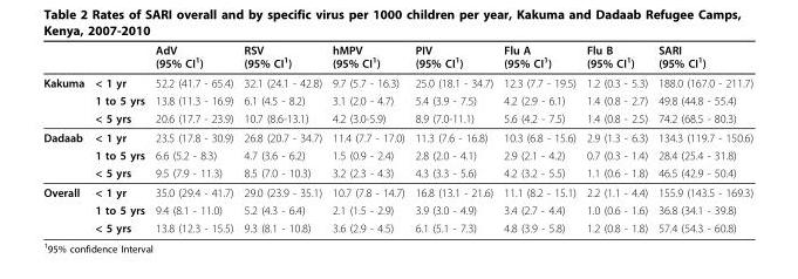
<table><thead><tr><td></td><td></td><td>AdV (95% CI<sup>1</sup>)</td><td>RSV (95% CI<sup>1</sup>)</td><td>hMPV (95% CI<sup>1</sup>)</td><td>PIV (95% CI<sup>1</sup>)</td><td>Flu A (95% CI<sup>1</sup>)</td><td>Flu B (95% CI<sup>1</sup>)</td><td>SARI (95% CI<sup>1</sup>)</td></tr></thead><tbody><tr><td rowspan="3">Kakuma</td><td>&lt; 1 yr</td><td>52.2 (41.7 - 65.4)</td><td>32.1 (24.1 - 42.8)</td><td>9.7 (5.7 - 16.3)</td><td>25.0 (18.1 - 34.7)</td><td>12.3 (7.7 - 19.5)</td><td>1.2 (0.3 - 5.3)</td><td>188.0 (167.0 - 211.7)</td></tr><tr><td>1 to 5 yrs</td><td>13.8 (11.3 - 16.9)</td><td>6.1 (4.5 - 8.2)</td><td>3.1 (2.0 - 4.7)</td><td>5.4 (3.9 - 7.5)</td><td>4.2 (2.9 - 6.1)</td><td>1.4 (0.8 - 2.7)</td><td>49.8 (44.8 - 55.4)</td></tr><tr><td>&lt; 5 yrs</td><td>20.6 (17.7 - 23.9)</td><td>10.7 (8.6-13.1)</td><td>4.2 (3.0-5.9)</td><td>8.9 (7.0-11.1)</td><td>5.6 (4.2 - 7.5)</td><td>1.4 (0.8 - 2.5)</td><td>74.2 (68.5 - 80.3)</td></tr><tr><td rowspan="3">Dadaab</td><td>&lt; 1 yr</td><td>23.5 (17.8 - 30.9)</td><td>26.8 (20.7 - 34.7)</td><td>11.4 (7.7 - 17.0)</td><td>11.3 (7.6 - 16.8)</td><td>10.3 (6.8 - 15.6)</td><td>2.9 (1.3 - 6.3)</td><td>134.3 (119.7 - 150.6)</td></tr><tr><td>1 to 5 yrs</td><td>6.6 (5.2 - 8.3)</td><td>4.7 (3.6 - 6.2)</td><td>1.5 (0.9 - 2.4)</td><td>2.8 (2.0 - 4.1)</td><td>2.9 (2.1 - 4.2)</td><td>0.7 (0.3 - 1.4)</td><td>28.4 (25.4 - 31.8)</td></tr><tr><td>&lt; 5 yrs</td><td>9.5 (7.9 - 11.3)</td><td>8.5 (7.0 - 10.3)</td><td>3.2 (2.3 - 4.3)</td><td>4.3 (3.3 - 5.6)</td><td>4.2 (3.2 - 5.5)</td><td>1.1 (0.6 - 1.8)</td><td>46.5 (42.9 - 50.4)</td></tr><tr><td rowspan="3">Overall</td><td>&lt; 1 yr</td><td>35.0 (29.4 - 41.7)</td><td>29.0 (23.9 - 35.1)</td><td>10.7 (7.8 - 14.7)</td><td>16.8 (13.1 - 21.6)</td><td>11.1 (8.2 - 15.1)</td><td>2.2 (1.1 - 4.4)</td><td>155.9 (143.5 - 169.3)</td></tr><tr><td>1 to 5 yrs</td><td>9.4 (8.1 - 11.0)</td><td>5.2 (4.3 - 6.4)</td><td>2.1 (1.5 - 2.9)</td><td>3.9 (3.0 - 4.9)</td><td>3.4 (2.7 - 4.4)</td><td>1.0 (0.6 - 1.6)</td><td>36.8 (34.1 - 39.8)</td></tr><tr><td>&lt; 5 yrs</td><td>13.8 (12.3 - 15.5)</td><td>9.3 (8.1 - 10.8)</td><td>3.6 (2.9 - 4.5)</td><td>6.1 (5.1 - 7.3)</td><td>4.8 (3.9 - 5.8)</td><td>1.2 (0.8 - 1.8)</td><td>57.4 (54.3 - 60.8)</td></tr></tbody></table>